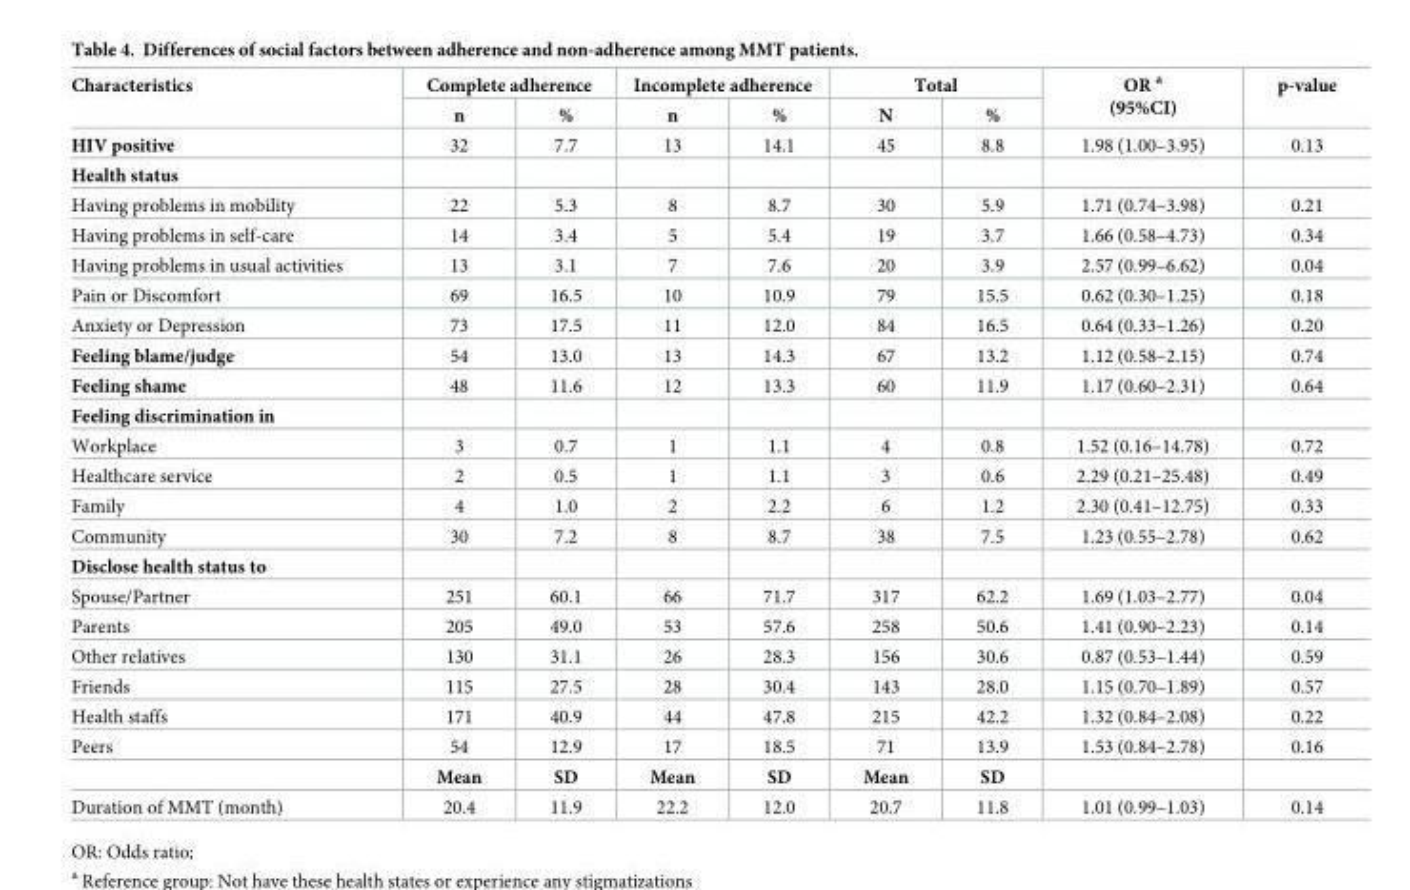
<table><thead><tr><td rowspan="2">Characteristics</td><td colspan="2">Complete adherence</td><td colspan="2">Incomplete adherence</td><td colspan="2">Total</td><td rowspan="2">OR <sup>a</sup> (95%CI)</td><td rowspan="2">p-value</td></tr><tr><td>n</td><td>%</td><td>n</td><td>%</td><td>N</td><td>%</td></tr></thead><tbody><tr><td>HIV positive</td><td>32</td><td>7.7</td><td>13</td><td>14.1</td><td>45</td><td>8.8</td><td>1.98 (1.00–3.95)</td><td>0.13</td></tr><tr><td colspan="9">Health status</td></tr><tr><td>Having problems in mobility</td><td>22</td><td>5.3</td><td>8</td><td>8.7</td><td>30</td><td>5.9</td><td>1.71 (0.74–3.98)</td><td>0.21</td></tr><tr><td>Having problems in self-care</td><td>14</td><td>3.4</td><td>5</td><td>5.4</td><td>19</td><td>3.7</td><td>1.66 (0.58–4.73)</td><td>0.34</td></tr><tr><td>Having problems in usual activities</td><td>13</td><td>3.1</td><td>7</td><td>7.6</td><td>20</td><td>3.9</td><td>2.57 (0.99–6.62)</td><td>0.04</td></tr><tr><td>Pain or Discomfort</td><td>69</td><td>16.5</td><td>10</td><td>10.9</td><td>79</td><td>15.5</td><td>0.62 (0.30–1.25)</td><td>0.18</td></tr><tr><td>Anxiety or Depression</td><td>73</td><td>17.5</td><td>11</td><td>12.0</td><td>84</td><td>16.5</td><td>0.64 (0.33–1.26)</td><td>0.20</td></tr><tr><td>Feeling blame/judge</td><td>54</td><td>13.0</td><td>13</td><td>14.3</td><td>67</td><td>13.2</td><td>1.12 (0.58–2.15)</td><td>0.74</td></tr><tr><td>Feeling shame</td><td>48</td><td>11.6</td><td>12</td><td>13.3</td><td>60</td><td>11.9</td><td>1.17 (0.60–2.31)</td><td>0.64</td></tr><tr><td colspan="9">Feeling discrimination in</td></tr><tr><td>Workplace</td><td>3</td><td>0.7</td><td>1</td><td>1.1</td><td>4</td><td>0.8</td><td>1.52 (0.16–14.78)</td><td>0.72</td></tr><tr><td>Healthcare service</td><td>2</td><td>0.5</td><td>1</td><td>1.1</td><td>3</td><td>0.6</td><td>2.29 (0.21–25.48)</td><td>0.49</td></tr><tr><td>Family</td><td>4</td><td>1.0</td><td>2</td><td>2.2</td><td>6</td><td>1.2</td><td>2.30 (0.41–12.75)</td><td>0.33</td></tr><tr><td>Community</td><td>30</td><td>7.2</td><td>8</td><td>8.7</td><td>38</td><td>7.5</td><td>1.23 (0.55–2.78)</td><td>0.62</td></tr><tr><td colspan="9">Disclose health status to</td></tr><tr><td>Spouse/Partner</td><td>251</td><td>60.1</td><td>66</td><td>71.7</td><td>317</td><td>62.2</td><td>1.69 (1.03–2.77)</td><td>0.04</td></tr><tr><td>Parents</td><td>205</td><td>49.0</td><td>53</td><td>57.6</td><td>258</td><td>50.6</td><td>1.41 (0.90–2.23)</td><td>0.14</td></tr><tr><td>Other relatives</td><td>130</td><td>31.1</td><td>26</td><td>28.3</td><td>156</td><td>30.6</td><td>0.87 (0.53–1.44)</td><td>0.59</td></tr><tr><td>Friends</td><td>115</td><td>27.5</td><td>28</td><td>30.4</td><td>143</td><td>28.0</td><td>1.15 (0.70–1.89)</td><td>0.57</td></tr><tr><td>Health staffs</td><td>171</td><td>40.9</td><td>44</td><td>47.8</td><td>215</td><td>42.2</td><td>1.32 (0.84–2.08)</td><td>0.22</td></tr><tr><td rowspan="2">Peers</td><td>54</td><td>12.9</td><td>17</td><td>18.5</td><td>71</td><td>13.9</td><td>1.53 (0.84–2.78)</td><td>0.16</td></tr><tr><td>Mean</td><td>SD</td><td>Mean</td><td>SD</td><td>Mean</td><td>SD</td><td></td><td></td></tr><tr><td>Duration of MMT (month)</td><td>20.4</td><td>11.9</td><td>22.2</td><td>12.0</td><td>20.7</td><td>11.8</td><td>1.01 (0.99–1.03)</td><td>0.14</td></tr></tbody></table>